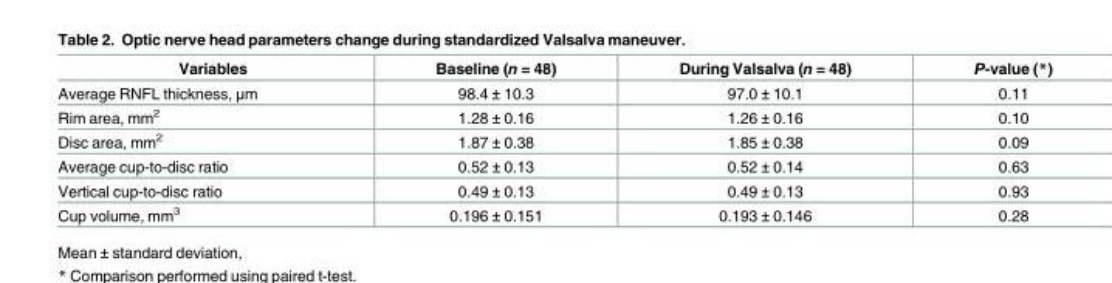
<table><thead><tr><td>Variables</td><td>Baseline (n = 48)</td><td>During Valsalva (n = 48)</td><td>P-value (*)</td></tr></thead><tbody><tr><td>Average RNFL thickness, μm</td><td>98.4 ± 10.3</td><td>97.0 ± 10.1</td><td>0.11</td></tr><tr><td>Rim area, mm<sup>2</sup></td><td>1.28 ± 0.16</td><td>1.26 ± 0.16</td><td>0.10</td></tr><tr><td>Disc area, mm<sup>2</sup></td><td>1.87 ± 0.38</td><td>1.85 ± 0.38</td><td>0.09</td></tr><tr><td>Average cup-to-disc ratio</td><td>0.52 ± 0.13</td><td>0.52 ± 0.14</td><td>0.63</td></tr><tr><td>Vertical cup-to-disc ratio</td><td>0.49 ± 0.13</td><td>0.49 ± 0.13</td><td>0.93</td></tr><tr><td>Cup volume, mm<sup>3</sup></td><td>0.196 ± 0.151</td><td>0.193 ± 0.146</td><td>0.28</td></tr></tbody></table>